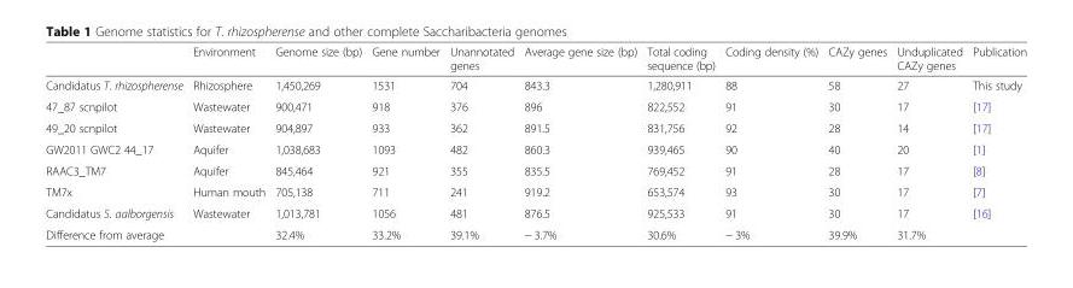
<table><thead><tr><td></td><td>Environment</td><td>Genome size (bp)</td><td>Gene number</td><td>Unannotated genes</td><td>Average gene size (bp)</td><td>Total coding sequence (bp)</td><td>Coding density (%)</td><td>CAZy genes</td><td>Unduplicated CAZy genes</td><td>Publication</td></tr></thead><tbody><tr><td>Candidatus T. rhizospherense</td><td>Rhizosphere</td><td>1,450,269</td><td>1531</td><td>704</td><td>843.3</td><td>1,280,911</td><td>88</td><td>58</td><td>27</td><td>This study</td></tr><tr><td>47_87 scnpilot</td><td>Wastewater</td><td>900,471</td><td>918</td><td>376</td><td>896</td><td>822,552</td><td>91</td><td>30</td><td>17</td><td>[17]</td></tr><tr><td>49_20 scnpilot</td><td>Wastewater</td><td>904,897</td><td>933</td><td>362</td><td>891.5</td><td>831,756</td><td>92</td><td>28</td><td>14</td><td>[17]</td></tr><tr><td>GW2011 GWC2 44_17</td><td>Aquifer</td><td>1,038,683</td><td>1093</td><td>482</td><td>860.3</td><td>939,465</td><td>90</td><td>40</td><td>20</td><td>[1]</td></tr><tr><td>RAAC3_TM7</td><td>Aquifer</td><td>845,464</td><td>921</td><td>355</td><td>835.5</td><td>769,452</td><td>91</td><td>28</td><td>17</td><td>[8]</td></tr><tr><td>TM7x</td><td>Human mouth</td><td>705,138</td><td>711</td><td>241</td><td>919.2</td><td>653,574</td><td>93</td><td>30</td><td>17</td><td>[7]</td></tr><tr><td>Candidatus S. aalborgensis</td><td>Wastewater</td><td>1,013,781</td><td>1056</td><td>481</td><td>876.5</td><td>925,533</td><td>91</td><td>30</td><td>17</td><td>[16]</td></tr><tr><td>Difference from average</td><td></td><td>32.4%</td><td>33.2%</td><td>39.1%</td><td>− 3.7%</td><td>30.6%</td><td>− 3%</td><td>39.9%</td><td>31.7%</td><td></td></tr></tbody></table>